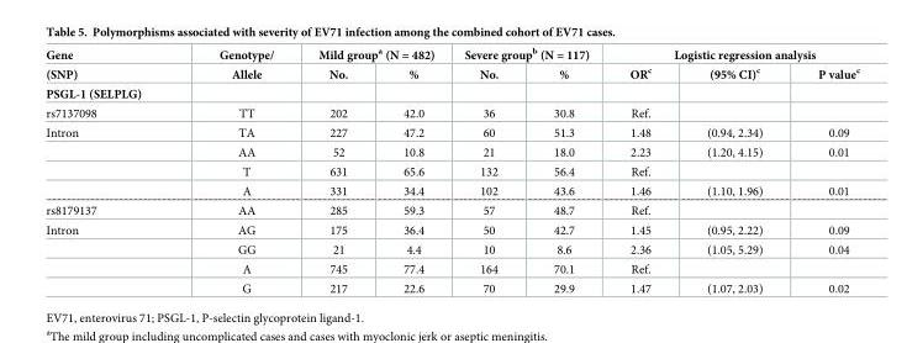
<table><thead><tr><td rowspan="2">Gene (SNP)</td><td rowspan="2">Genotype/ Allele</td><td colspan="2">Mild group<sup>a</sup> (N = 482)</td><td colspan="2">Severe group<sup>b</sup> (N = 117)</td><td colspan="3">Logistic regression analysis</td></tr><tr><td>No.</td><td>%</td><td>No.</td><td>%</td><td>OR<sup>c</sup></td><td>(95% CI)<sup>c</sup></td><td>P value<sup>c</sup></td></tr></thead><tbody><tr><td colspan="9">PSGL-1 (SELPLG)</td></tr><tr><td>rs7137098</td><td>TT</td><td>202</td><td>42.0</td><td>36</td><td>30.8</td><td>Ref.</td><td></td><td></td></tr><tr><td rowspan="4">Intron</td><td>TA</td><td>227</td><td>47.2</td><td>60</td><td>51.3</td><td>1.48</td><td>(0.94, 2.34)</td><td>0.09</td></tr><tr><td>AA</td><td>52</td><td>10.8</td><td>21</td><td>18.0</td><td>2.23</td><td>(1.20, 4.15)</td><td>0.01</td></tr><tr><td>T</td><td>631</td><td>65.6</td><td>132</td><td>56.4</td><td>Ref.</td><td></td><td></td></tr><tr><td>A</td><td>331</td><td>34.4</td><td>102</td><td>43.6</td><td>1.46</td><td>(1.10, 1.96)</td><td>0.01</td></tr><tr><td>rs8179137</td><td>AA</td><td>285</td><td>59.3</td><td>57</td><td>48.7</td><td>Ref.</td><td></td><td></td></tr><tr><td rowspan="4">Intron</td><td>AG</td><td>175</td><td>36.4</td><td>50</td><td>42.7</td><td>1.45</td><td>(0.95, 2.22)</td><td>0.09</td></tr><tr><td>GG</td><td>21</td><td>4.4</td><td>10</td><td>8.6</td><td>2.36</td><td>(1.05, 5.29)</td><td>0.04</td></tr><tr><td>A</td><td>745</td><td>77.4</td><td>164</td><td>70.1</td><td>Ref.</td><td></td><td></td></tr><tr><td>G</td><td>217</td><td>22.6</td><td>70</td><td>29.9</td><td>1.47</td><td>(1.07, 2.03)</td><td>0.02</td></tr></tbody></table>